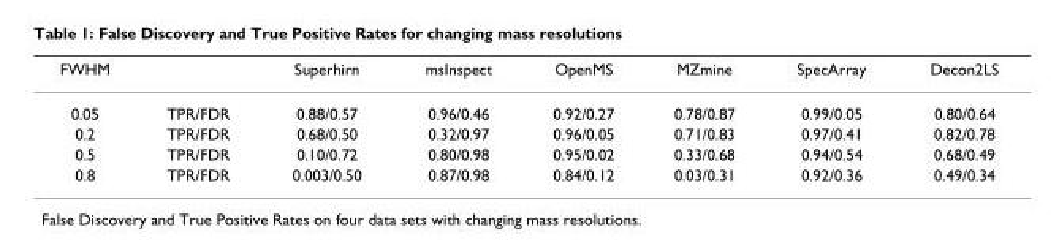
<table><thead><tr><td>FWHM</td><td></td><td>Superhirn</td><td>msInspect</td><td>OpenMS</td><td>MZmine</td><td>SpecArray</td><td>Decon2LS</td></tr></thead><tbody><tr><td>0.05</td><td>TPR/FDR</td><td>0.88/0.57</td><td>0.96/0.46</td><td>0.92/0.27</td><td>0.78/0.87</td><td>0.99/0.05</td><td>0.80/0.64</td></tr><tr><td>0.2</td><td>TPR/FDR</td><td>0.68/0.50</td><td>0.32/0.97</td><td>0.96/0.05</td><td>0.71/0.83</td><td>0.97/0.41</td><td>0.82/0.78</td></tr><tr><td>0.5</td><td>TPR/FDR</td><td>0.10/0.72</td><td>0.80/0.98</td><td>0.95/0.02</td><td>0.33/0.68</td><td>0.94/0.54</td><td>0.68/0.49</td></tr><tr><td>0.8</td><td>TPR/FDR</td><td>0.003/0.50</td><td>0.87/0.98</td><td>0.84/0.12</td><td>0.03/0.31</td><td>0.92/0.36</td><td>0.49/0.34</td></tr></tbody></table>